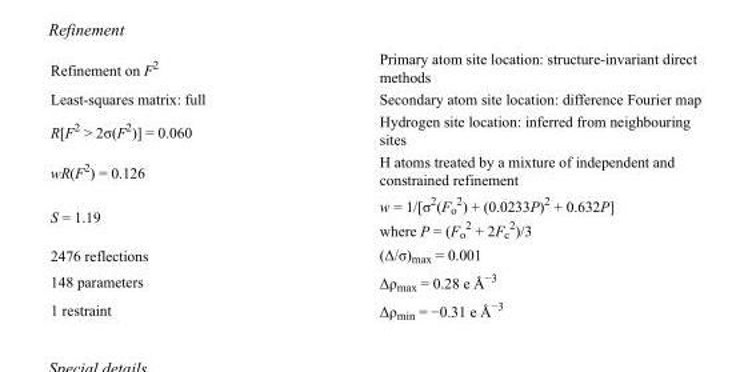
<table><tbody><tr><td>Refinement on F<sup>2</sup></td><td>Primary atom site location: structure-invariant direct methods</td></tr><tr><td>Least-squares matrix: full</td><td>Secondary atom site location: difference Fourier map</td></tr><tr><td>R[F<sup>2</sup> &gt; 2σ(F<sup>2</sup>)] = 0.060</td><td>Hydrogen site location: inferred from neighbouring sites</td></tr><tr><td>wR(F<sup>2</sup>) = 0.126</td><td>H atoms treated by a mixture of independent and constrained refinement</td></tr><tr><td>S = 1.19</td><td>w = 1/[σ<sup>2</sup>(F<sub>o</sub> <sup>2</sup>) + (0.0233P)<sup>2</sup> + 0.632P] where P = (F<sub>o</sub> <sup>2</sup> + 2F<sub>c</sub> <sup>2</sup>)/3</td></tr><tr><td>2476 reflections</td><td>(Δ/σ)<sub>max</sub> = 0.001</td></tr><tr><td>148 parameters</td><td>Δρ<sub>max</sub> = 0.28 e Å<sup>−3</sup></td></tr><tr><td>1 restraint</td><td>Δρ<sub>min</sub> = −0.31 e Å<sup>−3</sup></td></tr></tbody></table>